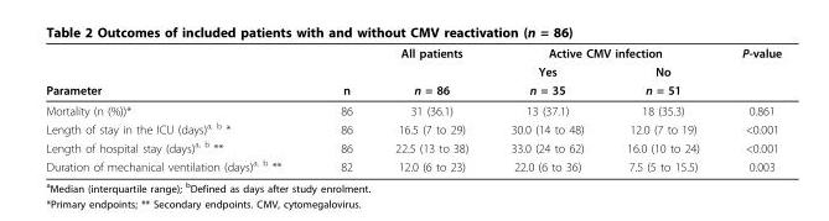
<table><thead><tr><td rowspan="3">Parameter</td><td rowspan="3">n</td><td rowspan="3">All patients n = 86</td><td colspan="2">Active CMV infection</td><td rowspan="3">P-value</td></tr><tr><td rowspan="2">Yes n = 35</td><td rowspan="2">No n = 51</td></tr><tr></tr></thead><tbody><tr><td>Mortality (n (%))*</td><td>86</td><td>31 (36.1)</td><td>13 (37.1)</td><td>18 (35.3)</td><td>0.861</td></tr><tr><td>Length of stay in the ICU (days)<sup>a, b</sup> *</td><td>86</td><td>16.5 (7 to 29)</td><td>30.0 (14 to 48)</td><td>12.0 (7 to 19)</td><td>&lt;0.001</td></tr><tr><td>Length of hospital stay (days)<sup>a, b</sup> **</td><td>86</td><td>22.5 (13 to 38)</td><td>33.0 (24 to 62)</td><td>16.0 (10 to 24)</td><td>&lt;0.001</td></tr><tr><td>Duration of mechanical ventilation (days)<sup>a, b</sup> **</td><td>82</td><td>12.0 (6 to 23)</td><td>22.0 (6 to 36)</td><td>7.5 (5 to 15.5)</td><td>0.003</td></tr></tbody></table>